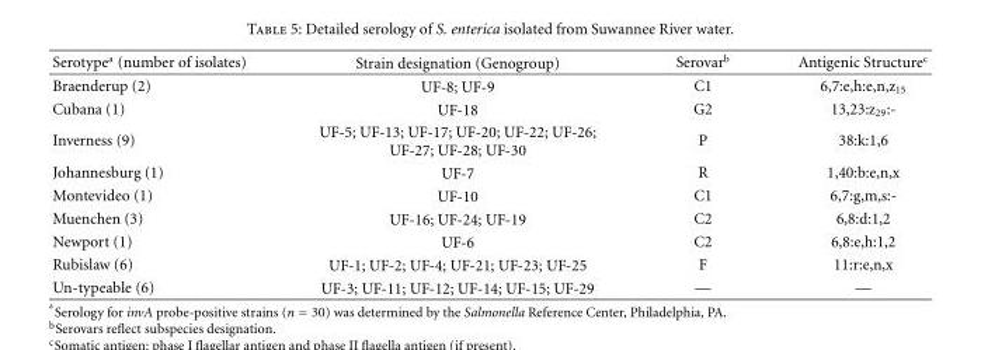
<table><thead><tr><td>Serotype<sup>a</sup> (number of isolates)</td><td>Strain designation (Genogroup)</td><td>Serovar<sup>b</sup></td><td>Antigenic Structure<sup>c</sup></td></tr></thead><tbody><tr><td>Braenderup (2)</td><td>UF-8; UF-9</td><td>C1</td><td>6,7:e,h:e,n,z<sub>15</sub></td></tr><tr><td>Cubana (1)</td><td>UF-18</td><td>G2</td><td>13,23:z<sub>29</sub>:-</td></tr><tr><td>Inverness (9)</td><td>UF-5; UF-13; UF-17; UF-20; UF-22; UF-26; UF-27; UF-28; UF-30</td><td>P</td><td>38:k:1,6</td></tr><tr><td>Johannesburg (1)</td><td>UF-7</td><td>R</td><td>1,40:b:e,n,x</td></tr><tr><td>Montevideo (1)</td><td>UF-10</td><td>C1</td><td>6,7:g,m,s:-</td></tr><tr><td>Muenchen (3)</td><td>UF-16; UF-24; UF-19</td><td>C2</td><td>6,8:d:1,2</td></tr><tr><td>Newport (1)</td><td>UF-6</td><td>C2</td><td>6,8:e,h:1,2</td></tr><tr><td>Rubislaw (6)</td><td>UF-1; UF-2; UF-4; UF-21; UF-23; UF-25</td><td>F</td><td>11:r:e,n,x</td></tr><tr><td>Un-typeable (6)</td><td>UF-3; UF-11; UF-12; UF-14; UF-15; UF-29</td><td>—</td><td>—</td></tr></tbody></table>